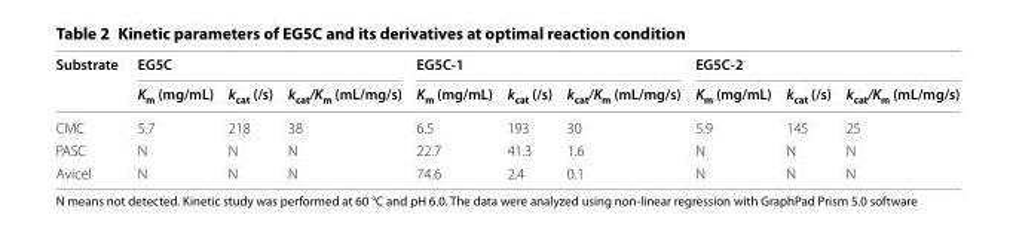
<table><thead><tr><td rowspan="2">Substrate</td><td colspan="3">EG5C</td><td colspan="3">EG5C‑1</td><td colspan="3">EG5C‑2</td></tr><tr><td>K<sub>m</sub> (mg/mL)</td><td>k<sub>cat</sub> (/s)</td><td>k<sub>cat</sub>/K<sub>m</sub> (mL/mg/s)</td><td>K<sub>m</sub> (mg/mL)</td><td>k<sub>cat</sub> (/s)</td><td>k<sub>cat</sub>/K<sub>m</sub> (mL/mg/s)</td><td>K<sub>m</sub> (mg/mL)</td><td>k<sub>cat</sub> (/s)</td><td>k<sub>cat</sub>/K<sub>m</sub> (mL/mg/s)</td></tr></thead><tbody><tr><td>CMC</td><td>5.7</td><td>218</td><td>38</td><td>6.5</td><td>193</td><td>30</td><td>5.9</td><td>145</td><td>25</td></tr><tr><td>PASC</td><td>N</td><td>N</td><td>N</td><td>22.7</td><td>41.3</td><td>1.6</td><td>N</td><td>N</td><td>N</td></tr><tr><td>Avicel</td><td>N</td><td>N</td><td>N</td><td>74.6</td><td>2.4</td><td>0.1</td><td>N</td><td>N</td><td>N</td></tr></tbody></table>